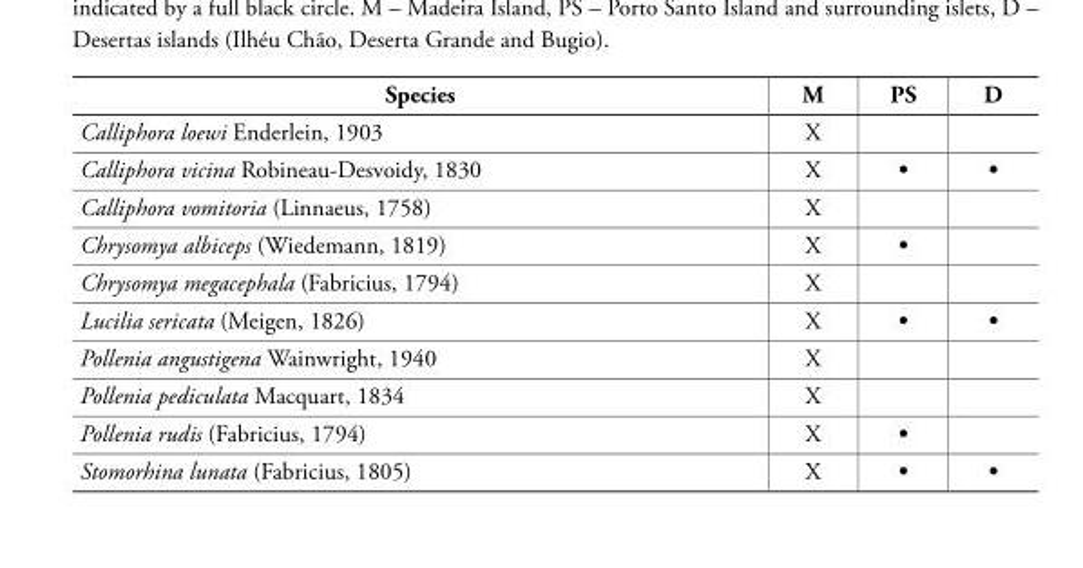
<table><thead><tr><td>Species</td><td>M</td><td>PS</td><td>D</td></tr></thead><tbody><tr><td>Calliphora loewi Enderlein, 1903</td><td>X</td><td></td><td></td></tr><tr><td>Calliphora vicina Robineau-Desvoidy, 1830</td><td>X</td><td>•</td><td>•</td></tr><tr><td>Calliphora vomitoria (Linnaeus, 1758)</td><td>X</td><td></td><td></td></tr><tr><td>Chrysomya albiceps (Wiedemann, 1819)</td><td>X</td><td>•</td><td></td></tr><tr><td>Chrysomya megacephala (Fabricius, 1794)</td><td>X</td><td></td><td></td></tr><tr><td>Lucilia sericata (Meigen, 1826)</td><td>X</td><td>•</td><td>•</td></tr><tr><td>Pollenia angustigena Wainwright, 1940</td><td>X</td><td></td><td></td></tr><tr><td>Pollenia pediculata Macquart, 1834</td><td>X</td><td></td><td></td></tr><tr><td>Pollenia rudis (Fabricius, 1794)</td><td>X</td><td>•</td><td></td></tr><tr><td>Stomorhina lunata (Fabricius, 1805)</td><td>X</td><td>•</td><td>•</td></tr></tbody></table>